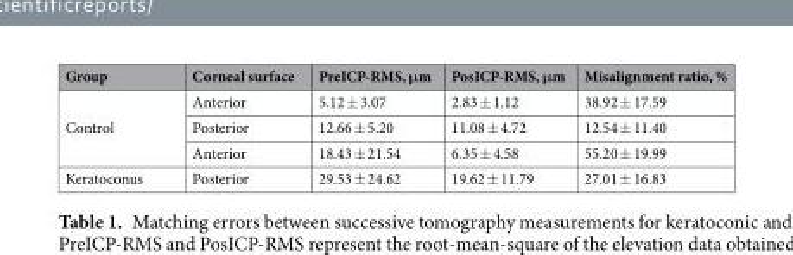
<table><thead><tr><td>Group</td><td>Corneal surface</td><td>PreICP-RMS, μm</td><td>PosICP-RMS, μm</td><td>Misalignment ratio, %</td></tr></thead><tbody><tr><td rowspan="3">Control</td><td>Anterior</td><td>5.12 ± 3.07</td><td>2.83 ± 1.12</td><td>38.92 ± 17.59</td></tr><tr><td>Posterior</td><td>12.66 ± 5.20</td><td>11.08 ± 4.72</td><td>12.54 ± 11.40</td></tr><tr><td>Anterior</td><td>18.43 ± 21.54</td><td>6.35 ± 4.58</td><td>55.20 ± 19.99</td></tr><tr><td>Keratoconus</td><td>Posterior</td><td>29.53 ± 24.62</td><td>19.62 ± 11.79</td><td>27.01 ± 16.83</td></tr></tbody></table>